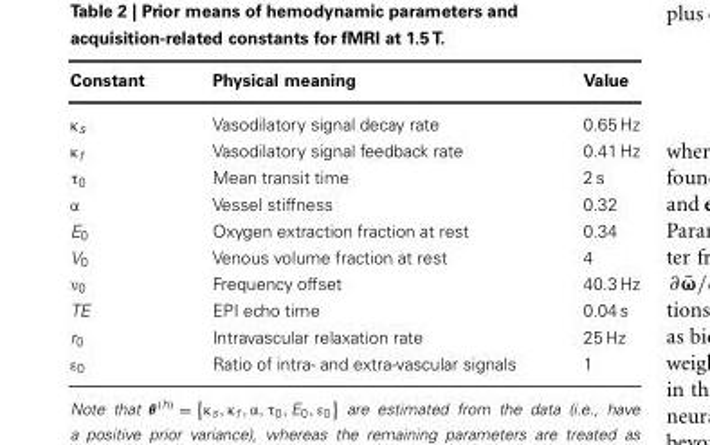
<table><thead><tr><td>Constant</td><td>Physical meaning</td><td>Value</td></tr></thead><tbody><tr><td>κ<sub>s</sub></td><td>Vasodilatory signal decay rate</td><td>0.65 Hz</td></tr><tr><td>κ<sub>f</sub></td><td>Vasodilatory signal feedback rate</td><td>0.41 Hz</td></tr><tr><td>τ<sub>0</sub></td><td>Mean transit time</td><td>2 s</td></tr><tr><td>α</td><td>Vessel stiffness</td><td>0.32</td></tr><tr><td>E<sub>0</sub></td><td>Oxygen extraction fraction at rest</td><td>0.34</td></tr><tr><td>V<sub>0</sub></td><td>Venous volume fraction at rest</td><td>4</td></tr><tr><td>ν<sub>0</sub></td><td>Frequency offset</td><td>40.3 Hz</td></tr><tr><td>TE</td><td>EPI echo time</td><td>0.04 s</td></tr><tr><td>r<sub>0</sub></td><td>Intravascular relaxation rate</td><td>25 Hz</td></tr><tr><td>ε<sub>0</sub></td><td>Ratio of intra- and extra-vascular signals</td><td>1</td></tr></tbody></table>